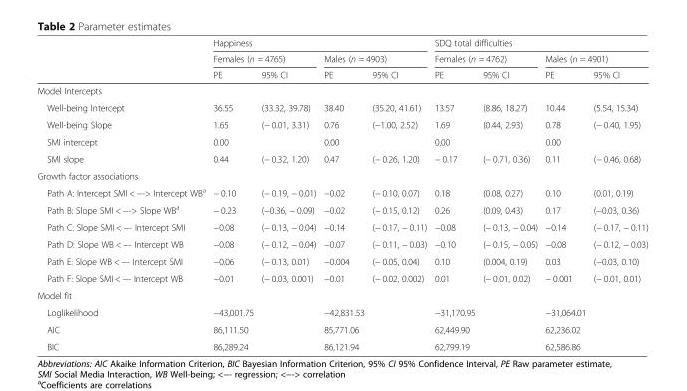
<table><thead><tr><td rowspan="3"></td><td colspan="4">Happiness</td><td colspan="4">SDQ total difficulties</td></tr><tr><td colspan="2">Females (n = 4765)</td><td colspan="2">Males (n = 4903)</td><td colspan="2">Females (n = 4762)</td><td colspan="2">Males (n = 4901)</td></tr><tr><td>PE</td><td>95% CI</td><td>PE</td><td>95% CI</td><td>PE</td><td>95% CI</td><td>PE</td><td>95% CI</td></tr></thead><tbody><tr><td colspan="9">Model Intercepts</td></tr><tr><td>Well-being Intercept</td><td>36.55</td><td>(33.32, 39.78)</td><td>38.40</td><td>(35.20, 41.61)</td><td>13.57</td><td>(8.86, 18.27)</td><td>10.44</td><td>(5.54, 15.34)</td></tr><tr><td>Well-being Slope</td><td>1.65</td><td>(− 0.01, 3.31)</td><td>0.76</td><td>(−1.00, 2.52)</td><td>1.69</td><td>(0.44, 2.93)</td><td>0.78</td><td>(− 0.40, 1.95)</td></tr><tr><td>SMI intercept</td><td>0.00</td><td></td><td>0.00</td><td></td><td>0.00</td><td></td><td>0.00</td><td></td></tr><tr><td>SMI slope</td><td>0.44</td><td>(− 0.32, 1.20)</td><td>0.47</td><td>(− 0.26, 1.20)</td><td>− 0.17</td><td>(− 0.71, 0.36)</td><td>0.11</td><td>(− 0.46, 0.68)</td></tr><tr><td colspan="9">Growth factor associations</td></tr><tr><td>Path A: Intercept SMI &lt; −-&gt; Intercept WB<sup>a</sup></td><td>− 0.10</td><td>(− 0.19, − 0.01)</td><td>−0.02</td><td>(− 0.10, 0.07)</td><td>0.18</td><td>(0.08, 0.27)</td><td>0.10</td><td>(0.01, 0.19)</td></tr><tr><td>Path B: Slope SMI &lt; −-&gt; Slope WB<sup>a</sup></td><td>− 0.23</td><td>(−0.36, − 0.09)</td><td>−0.02</td><td>(− 0.15, 0.12)</td><td>0.26</td><td>(0.09, 0.43)</td><td>0.17</td><td>(−0.03, 0.36)</td></tr><tr><td>Path C: Slope SMI &lt; −- Intercept SMI</td><td>−0.08</td><td>(− 0.13, − 0.04)</td><td>−0.14</td><td>(− 0.17, − 0.11)</td><td>−0.08</td><td>(− 0.13, − 0.04)</td><td>−0.14</td><td>(− 0.17, − 0.11)</td></tr><tr><td>Path D: Slope WB &lt; −- Intercept WB</td><td>−0.08</td><td>(− 0.12, − 0.04)</td><td>−0.07</td><td>(− 0.11, − 0.03)</td><td>−0.10</td><td>(− 0.15, − 0.05)</td><td>−0.08</td><td>(− 0.12, − 0.03)</td></tr><tr><td>Path E: Slope WB &lt; −- Intercept SMI</td><td>−0.06</td><td>(− 0.13, 0.01)</td><td>−0.004</td><td>(− 0.05, 0.04)</td><td>0.10</td><td>(0.004, 0.19)</td><td>0.03</td><td>(−0.03, 0.10)</td></tr><tr><td>Path F: Slope SMI &lt; −- Intercept WB</td><td>−0.01</td><td>(− 0.03, 0.001)</td><td>−0.01</td><td>(− 0.02, 0.002)</td><td>0.01</td><td>(− 0.01, 0.02)</td><td>− 0.001</td><td>(− 0.01, 0.01)</td></tr><tr><td colspan="9">Model fit</td></tr><tr><td>Loglikelihood</td><td>−43,001.75</td><td></td><td>−42,831.53</td><td></td><td>−31,170.95</td><td></td><td>−31,064.01</td><td></td></tr><tr><td>AIC</td><td>86,111.50</td><td></td><td>85,771.06</td><td></td><td>62,449.90</td><td></td><td>62,236.02</td><td></td></tr><tr><td>BIC</td><td>86,289.24</td><td></td><td>86,121.94</td><td></td><td>62,799.19</td><td></td><td>62,586.86</td><td></td></tr></tbody></table>